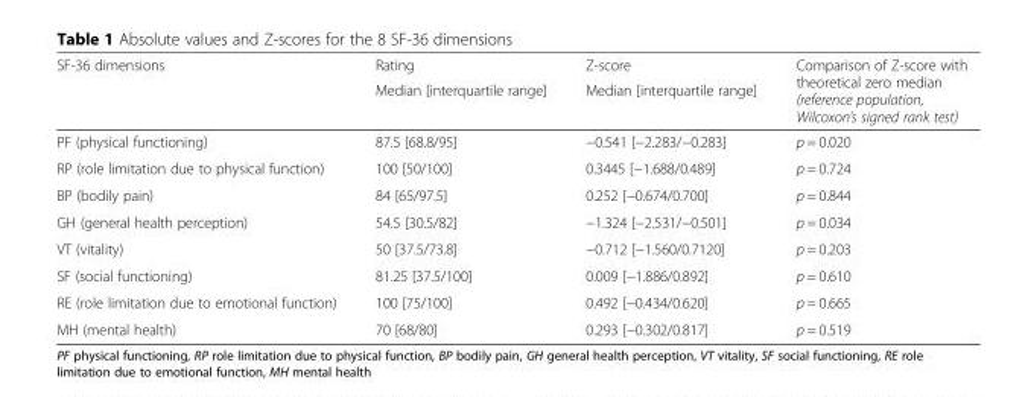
<table><thead><tr><td rowspan="2">SF-36 dimensions</td><td rowspan="2">Rating Median [interquartile range]</td><td rowspan="2">Z-score Median [interquartile range]</td><td rowspan="2">Comparison of Z-score with theoretical zero median (reference population, Wilcoxon’s signed rank test)</td></tr><tr></tr></thead><tbody><tr><td>PF (physical functioning)</td><td>87.5 [68.8/95]</td><td>−0.541 [−2.283/−0.283]</td><td>p = 0.020</td></tr><tr><td>RP (role limitation due to physical function)</td><td>100 [50/100]</td><td>0.3445 [−1.688/0.489]</td><td>p = 0.724</td></tr><tr><td>BP (bodily pain)</td><td>84 [65/97.5]</td><td>0.252 [−0.674/0.700]</td><td>p = 0.844</td></tr><tr><td>GH (general health perception)</td><td>54.5 [30.5/82]</td><td>−1.324 [−2.531/−0.501]</td><td>p = 0.034</td></tr><tr><td>VT (vitality)</td><td>50 [37.5/73.8]</td><td>−0.712 [−1.560/0.7120]</td><td>p = 0.203</td></tr><tr><td>SF (social functioning)</td><td>81.25 [37.5/100]</td><td>0.009 [−1.886/0.892]</td><td>p = 0.610</td></tr><tr><td>RE (role limitation due to emotional function)</td><td>100 [75/100]</td><td>0.492 [−0.434/0.620]</td><td>p = 0.665</td></tr><tr><td>MH (mental health)</td><td>70 [68/80]</td><td>0.293 [−0.302/0.817]</td><td>p = 0.519</td></tr></tbody></table>